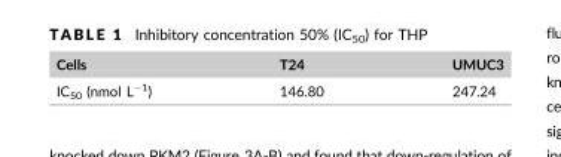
<table><thead><tr><td>Cells</td><td>T24</td><td>UMUC3</td></tr></thead><tbody><tr><td>IC<sub>50</sub> (nmol L<sup>−1</sup>)</td><td>146.80</td><td>247.24</td></tr></tbody></table>